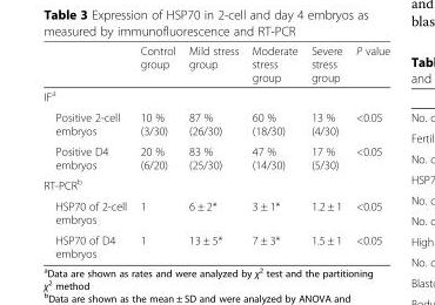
<table><thead><tr><td></td><td>Control group</td><td>Mild stress group</td><td>Moderate stress group</td><td>Severe stress group</td><td>P value</td></tr></thead><tbody><tr><td colspan="6">IF<sup>a</sup></td></tr><tr><td>Positive 2-cell embryos</td><td>10 % (3/30)</td><td>87 % (26/30)</td><td>60 % (18/30)</td><td>13 % (4/30)</td><td>&lt;0.05</td></tr><tr><td>Positive D4 embryos</td><td>20 % (6/20)</td><td>83 % (25/30)</td><td>47 % (14/30)</td><td>17 % (5/30)</td><td>&lt;0.05</td></tr><tr><td colspan="6">RT-PCR<sup>b</sup></td></tr><tr><td>HSP70 of 2-cell embryos</td><td>1</td><td>6 ± 2*</td><td>3 ± 1*</td><td>1.2 ± 1</td><td>&lt;0.05</td></tr><tr><td>HSP70 of D4 embryos</td><td>1</td><td>13 ± 5*</td><td>7 ± 3*</td><td>1.5 ± 1</td><td>&lt;0.05</td></tr></tbody></table>